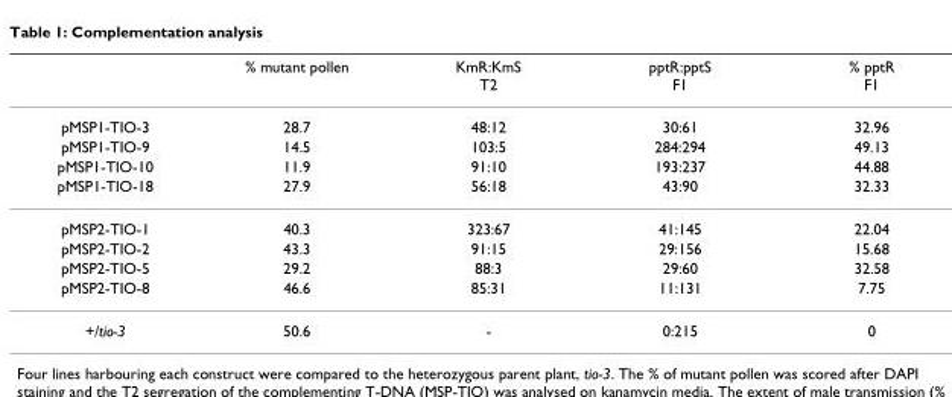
<table><thead><tr><td></td><td>% mutant pollen</td><td>KmR:KmS T2</td><td>pptR:pptS F1</td><td>% pptR F1</td></tr></thead><tbody><tr><td>pMSP1-TIO-3</td><td>28.7</td><td>48:12</td><td>30:61</td><td>32.96</td></tr><tr><td>pMSP1-TIO-9</td><td>14.5</td><td>103:5</td><td>284:294</td><td>49.13</td></tr><tr><td>pMSP1-TIO-10</td><td>11.9</td><td>91:10</td><td>193:237</td><td>44.88</td></tr><tr><td>pMSP1-TIO-18</td><td>27.9</td><td>56:18</td><td>43:90</td><td>32.33</td></tr><tr><td>pMSP2-TIO-1</td><td>40.3</td><td>323:67</td><td>41:145</td><td>22.04</td></tr><tr><td>pMSP2-TIO-2</td><td>43.3</td><td>91:15</td><td>29:156</td><td>15.68</td></tr><tr><td>pMSP2-TIO-5</td><td>29.2</td><td>88:3</td><td>29:60</td><td>32.58</td></tr><tr><td>pMSP2-TIO-8</td><td>46.6</td><td>85:31</td><td>11:131</td><td>7.75</td></tr><tr><td>+/tio-3</td><td>50.6</td><td>-</td><td>0:215</td><td>0</td></tr></tbody></table>